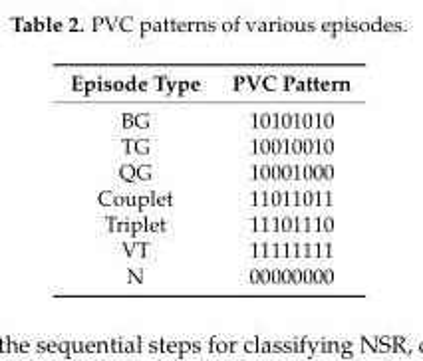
<table><thead><tr><td>Episode Type</td><td>PVC Pattern</td></tr></thead><tbody><tr><td>BG</td><td>10101010</td></tr><tr><td>TG</td><td>10010010</td></tr><tr><td>QG</td><td>10001000</td></tr><tr><td>Couplet</td><td>11011011</td></tr><tr><td>Triplet</td><td>11101110</td></tr><tr><td>VT</td><td>11111111</td></tr><tr><td>N</td><td>00000000</td></tr></tbody></table>